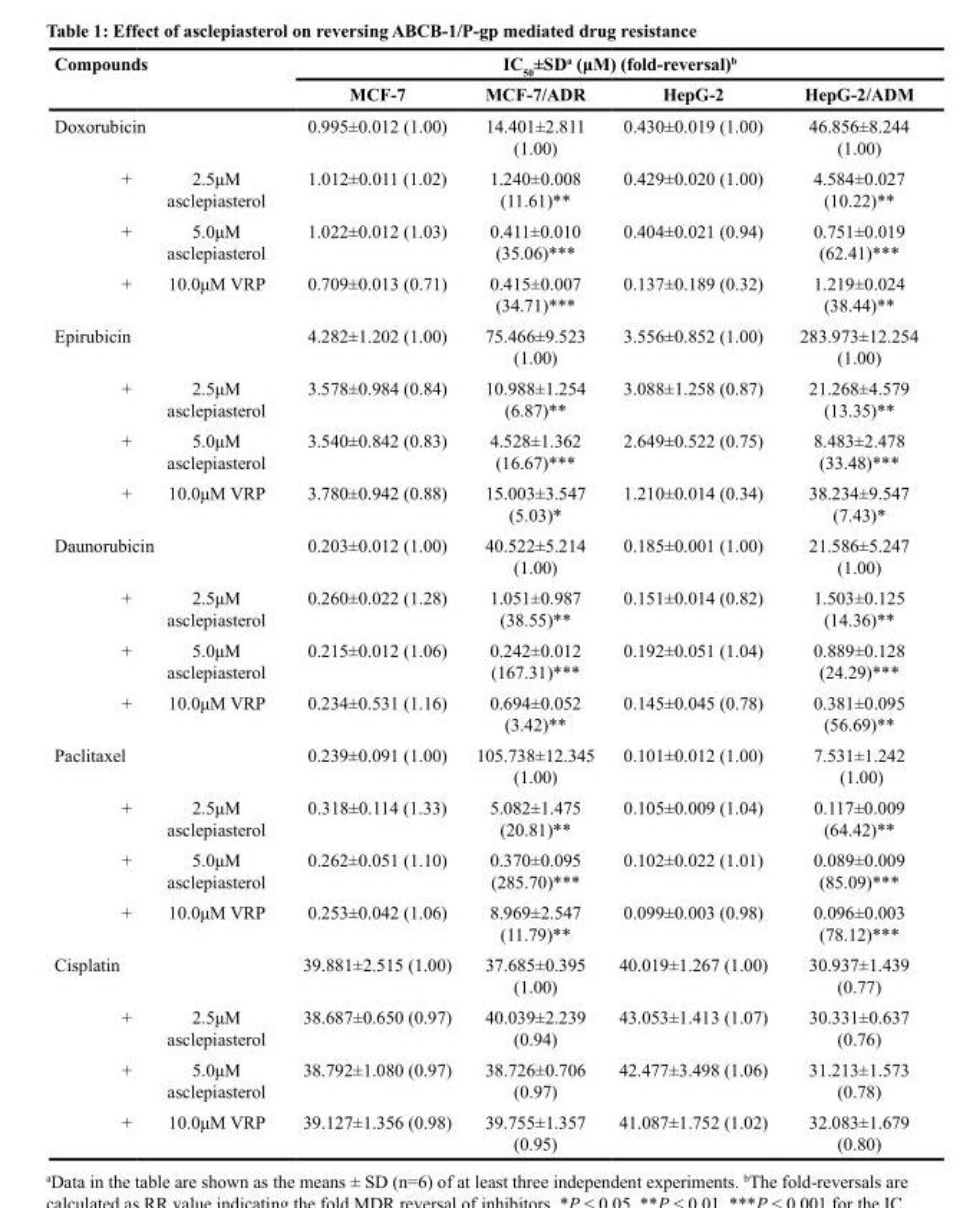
<table><thead><tr><td rowspan="2">Compounds</td><td rowspan="2"></td><td colspan="4">IC<sub>50</sub>±SD<sup>a</sup> (μM) (fold-reversal)<sup>b</sup></td></tr><tr><td>MCF-7</td><td>MCF-7/ADR</td><td>HepG-2</td><td>HepG-2/ADM</td></tr></thead><tbody><tr><td>Doxorubicin</td><td></td><td>0.995±0.012 (1.00)</td><td>14.401±2.811 (1.00)</td><td>0.430±0.019 (1.00)</td><td>46.856±8.244 (1.00)</td></tr><tr><td>+</td><td>2.5μM asclepiasterol</td><td>1.012±0.011 (1.02)</td><td>1.240±0.008 (11.61)**</td><td>0.429±0.020 (1.00)</td><td>4.584±0.027 (10.22)**</td></tr><tr><td>+</td><td>5.0μM asclepiasterol</td><td>1.022±0.012 (1.03)</td><td>0.411±0.010 (35.06)***</td><td>0.404±0.021 (0.94)</td><td>0.751±0.019 (62.41)***</td></tr><tr><td>+</td><td>10.0μM VRP</td><td>0.709±0.013 (0.71)</td><td>0.415±0.007 (34.71)***</td><td>0.137±0.189 (0.32)</td><td>1.219±0.024 (38.44)**</td></tr><tr><td>Epirubicin</td><td></td><td>4.282±1.202 (1.00)</td><td>75.466±9.523 (1.00)</td><td>3.556±0.852 (1.00)</td><td>283.973±12.254 (1.00)</td></tr><tr><td>+</td><td>2.5μM asclepiasterol</td><td>3.578±0.984 (0.84)</td><td>10.988±1.254 (6.87)**</td><td>3.088±1.258 (0.87)</td><td>21.268±4.579 (13.35)**</td></tr><tr><td>+</td><td>5.0μM asclepiasterol</td><td>3.540±0.842 (0.83)</td><td>4.528±1.362 (16.67)***</td><td>2.649±0.522 (0.75)</td><td>8.483±2.478 (33.48)***</td></tr><tr><td>+</td><td>10.0μM VRP</td><td>3.780±0.942 (0.88)</td><td>15.003±3.547 (5.03)*</td><td>1.210±0.014 (0.34)</td><td>38.234±9.547 (7.43)*</td></tr><tr><td>Daunorubicin</td><td></td><td>0.203±0.012 (1.00)</td><td>40.522±5.214 (1.00)</td><td>0.185±0.001 (1.00)</td><td>21.586±5.247 (1.00)</td></tr><tr><td>+</td><td>2.5μM asclepiasterol</td><td>0.260±0.022 (1.28)</td><td>1.051±0.987 (38.55)**</td><td>0.151±0.014 (0.82)</td><td>1.503±0.125 (14.36)**</td></tr><tr><td>+</td><td>5.0μM asclepiasterol</td><td>0.215±0.012 (1.06)</td><td>0.242±0.012 (167.31)***</td><td>0.192±0.051 (1.04)</td><td>0.889±0.128 (24.29)***</td></tr><tr><td>+</td><td>10.0μM VRP</td><td>0.234±0.531 (1.16)</td><td>0.694±0.052 (3.42)**</td><td>0.145±0.045 (0.78)</td><td>0.381±0.095 (56.69)**</td></tr><tr><td>Paclitaxel</td><td></td><td>0.239±0.091 (1.00)</td><td>105.738±12.345 (1.00)</td><td>0.101±0.012 (1.00)</td><td>7.531±1.242 (1.00)</td></tr><tr><td>+</td><td>2.5μM asclepiasterol</td><td>0.318±0.114 (1.33)</td><td>5.082±1.475 (20.81)**</td><td>0.105±0.009 (1.04)</td><td>0.117±0.009 (64.42)**</td></tr><tr><td>+</td><td>5.0μM asclepiasterol</td><td>0.262±0.051 (1.10)</td><td>0.370±0.095 (285.70)***</td><td>0.102±0.022 (1.01)</td><td>0.089±0.009 (85.09)***</td></tr><tr><td>+</td><td>10.0μM VRP</td><td>0.253±0.042 (1.06)</td><td>8.969±2.547 (11.79)**</td><td>0.099±0.003 (0.98)</td><td>0.096±0.003 (78.12)***</td></tr><tr><td>Cisplatin</td><td></td><td>39.881±2.515 (1.00)</td><td>37.685±0.395 (1.00)</td><td>40.019±1.267 (1.00)</td><td>30.937±1.439 (0.77)</td></tr><tr><td>+</td><td>2.5μM asclepiasterol</td><td>38.687±0.650 (0.97)</td><td>40.039±2.239 (0.94)</td><td>43.053±1.413 (1.07)</td><td>30.331±0.637 (0.76)</td></tr><tr><td>+</td><td>5.0μM asclepiasterol</td><td>38.792±1.080 (0.97)</td><td>38.726±0.706 (0.97)</td><td>42.477±3.498 (1.06)</td><td>31.213±1.573 (0.78)</td></tr><tr><td>+</td><td>10.0μM VRP</td><td>39.127±1.356 (0.98)</td><td>39.755±1.357 (0.95)</td><td>41.087±1.752 (1.02)</td><td>32.083±1.679 (0.80)</td></tr></tbody></table>